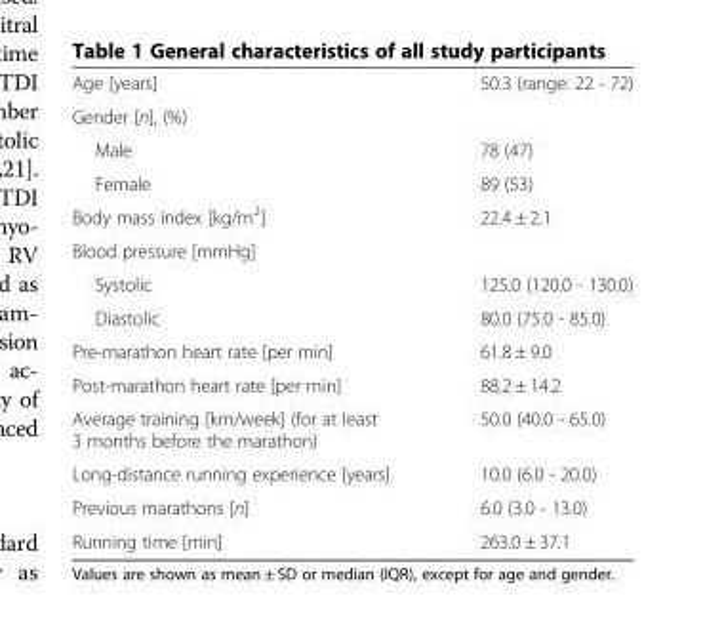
<table><tbody><tr><td>Age [years]</td><td>50.3 (range: 22 - 72)</td></tr><tr><td colspan="2">Gender [n], (%)</td></tr><tr><td>Male</td><td>78 (47)</td></tr><tr><td>Female</td><td>89 (53)</td></tr><tr><td>Body mass index [kg/m<sup>2</sup>]</td><td>22.4 ± 2.1</td></tr><tr><td colspan="2">Blood pressure [mmHg]</td></tr><tr><td>Systolic</td><td>125.0 (120.0 - 130.0)</td></tr><tr><td>Diastolic</td><td>80.0 (75.0 - 85.0)</td></tr><tr><td>Pre-marathon heart rate [per min]</td><td>61.8 ± 9.0</td></tr><tr><td>Post-marathon heart rate [per min]</td><td>88.2 ± 14.2</td></tr><tr><td>Average training [km/week] (for at least 3 months before the marathon)</td><td>50.0 (40.0 - 65.0)</td></tr><tr><td>Long-distance running experience [years]</td><td>10.0 (6.0 - 20.0)</td></tr><tr><td>Previous marathons [n]</td><td>6.0 (3.0 - 13.0)</td></tr><tr><td>Running time [min]</td><td>263.0 ± 37.1</td></tr></tbody></table>